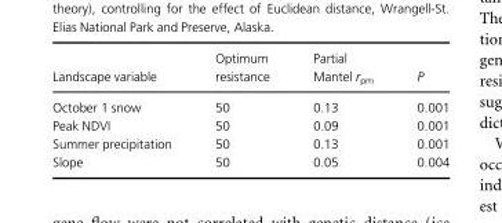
<table><thead><tr><td>Landscape variable</td><td>Optimum resistance</td><td>Partial Mantel r<sub>pm</sub></td><td>P</td></tr></thead><tbody><tr><td>October 1 snow</td><td>50</td><td>0.13</td><td>0.001</td></tr><tr><td>Peak NDVI</td><td>50</td><td>0.09</td><td>0.001</td></tr><tr><td>Summer precipitation</td><td>50</td><td>0.13</td><td>0.001</td></tr><tr><td>Slope</td><td>50</td><td>0.05</td><td>0.004</td></tr></tbody></table>